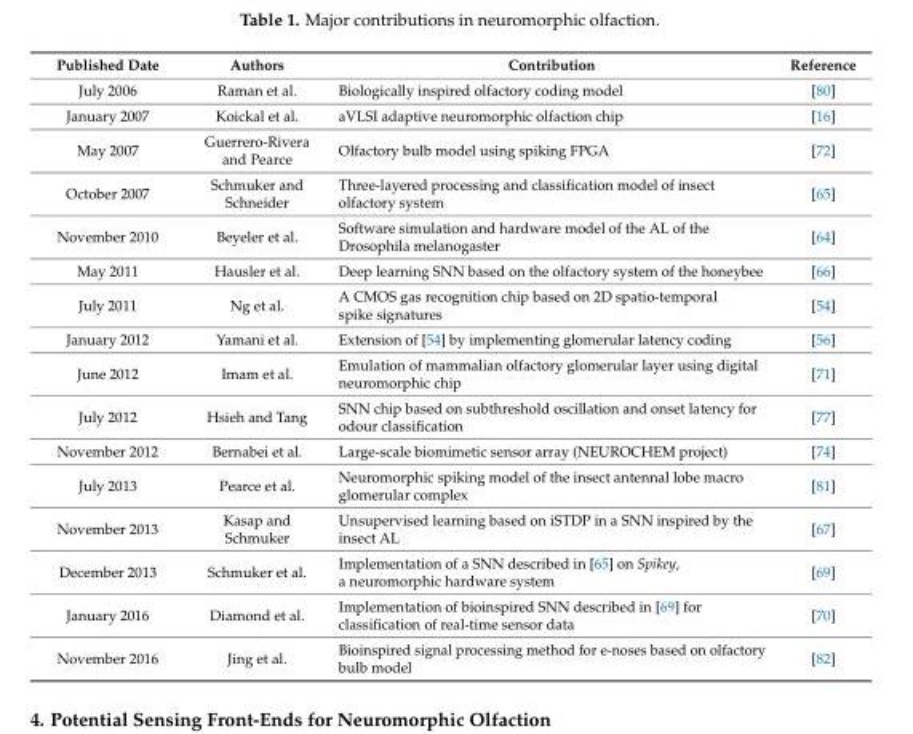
<table><thead><tr><td>Published Date</td><td>Authors</td><td>Contribution</td><td>Reference</td></tr></thead><tbody><tr><td>July 2006</td><td>Raman et al.</td><td>Biologically inspired olfactory coding model</td><td>[80]</td></tr><tr><td>January 2007</td><td>Koickal et al.</td><td>aVLSI adaptive neuromorphic olfaction chip</td><td>[16]</td></tr><tr><td>May 2007</td><td>Guerrero-Rivera and Pearce</td><td>Olfactory bulb model using spiking FPGA</td><td>[72]</td></tr><tr><td>October 2007</td><td>Schmuker and Schneider</td><td>Three-layered processing and classification model of insect olfactory system</td><td>[65]</td></tr><tr><td>November 2010</td><td>Beyeler et al.</td><td>Software simulation and hardware model of the AL of the Drosophila melanogaster</td><td>[64]</td></tr><tr><td>May 2011</td><td>Hausler et al.</td><td>Deep learning SNN based on the olfactory system of the honeybee</td><td>[66]</td></tr><tr><td>July 2011</td><td>Ng et al.</td><td>A CMOS gas recognition chip based on 2D spatio-temporal spike signatures</td><td>[54]</td></tr><tr><td>January 2012</td><td>Yamani et al.</td><td>Extension of [54] by implementing glomerular latency coding</td><td>[56]</td></tr><tr><td>June 2012</td><td>Imam et al.</td><td>Emulation of mammalian olfactory glomerular layer using digital neuromorphic chip</td><td>[71]</td></tr><tr><td>July 2012</td><td>Hsieh and Tang</td><td>SNN chip based on subthreshold oscillation and onset latency for odour classification</td><td>[77]</td></tr><tr><td>November 2012</td><td>Bernabei et al.</td><td>Large-scale biomimetic sensor array (NEUROCHEM project)</td><td>[74]</td></tr><tr><td>July 2013</td><td>Pearce et al.</td><td>Neuromorphic spiking model of the insect antennal lobe macro glomerular complex</td><td>[81]</td></tr><tr><td>November 2013</td><td>Kasap and Schmuker</td><td>Unsupervised learning based on iSTDP in a SNN inspired by the insect AL</td><td>[67]</td></tr><tr><td>December 2013</td><td>Schmuker et al.</td><td>Implementation of a SNN described in [65] on Spikey, a neuromorphic hardware system</td><td>[69]</td></tr><tr><td>January 2016</td><td>Diamond et al.</td><td>Implementation of bioinspired SNN described in [69] for classification of real-time sensor data</td><td>[70]</td></tr><tr><td>November 2016</td><td>Jing et al.</td><td>Bioinspired signal processing method for e-noses based on olfactory bulb model</td><td>[82]</td></tr></tbody></table>